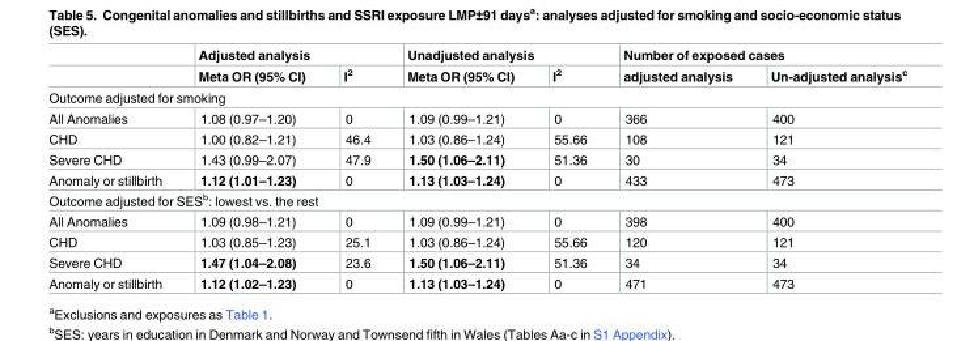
<table><thead><tr><td rowspan="2"></td><td colspan="2">Adjusted analysis</td><td colspan="2">Unadjusted analysis</td><td colspan="2">Number of exposed cases</td></tr><tr><td>Meta OR (95% CI)</td><td>I<sup>2</sup></td><td>Meta OR (95% CI)</td><td>I<sup>2</sup></td><td>adjusted analysis</td><td>Un-adjusted analysis<sup>c</sup></td></tr></thead><tbody><tr><td colspan="7">Outcome adjusted for smoking</td></tr><tr><td>All Anomalies</td><td>1.08 (0.97–1.20)</td><td>0</td><td>1.09 (0.99–1.21)</td><td>0</td><td>366</td><td>400</td></tr><tr><td>CHD</td><td>1.00 (0.82–1.21)</td><td>46.4</td><td>1.03 (0.86–1.24)</td><td>55.66</td><td>108</td><td>121</td></tr><tr><td>Severe CHD</td><td>1.43 (0.99–2.07)</td><td>47.9</td><td>1.50 (1.06–2.11)</td><td>51.36</td><td>30</td><td>34</td></tr><tr><td>Anomaly or stillbirth</td><td>1.12 (1.01–1.23)</td><td>0</td><td>1.13 (1.03–1.24)</td><td>0</td><td>433</td><td>473</td></tr><tr><td colspan="7">Outcome adjusted for SES<sup>b</sup>: lowest vs. the rest</td></tr><tr><td>All Anomalies</td><td>1.09 (0.98–1.21)</td><td>0</td><td>1.09 (0.99–1.21)</td><td>0</td><td>398</td><td>400</td></tr><tr><td>CHD</td><td>1.03 (0.85–1.23)</td><td>25.1</td><td>1.03 (0.86–1.24)</td><td>55.66</td><td>120</td><td>121</td></tr><tr><td>Severe CHD</td><td>1.47 (1.04–2.08)</td><td>23.6</td><td>1.50 (1.06–2.11)</td><td>51.36</td><td>34</td><td>34</td></tr><tr><td>Anomaly or stillbirth</td><td>1.12 (1.02–1.23)</td><td>0</td><td>1.13 (1.03–1.24)</td><td>0</td><td>471</td><td>473</td></tr></tbody></table>